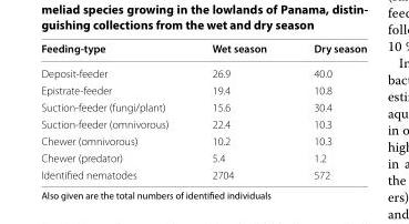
<table><thead><tr><td>Feeding‑type</td><td>Wet season</td><td>Dry season</td></tr></thead><tbody><tr><td>Deposit-feeder</td><td>26.9</td><td>40.0</td></tr><tr><td>Epistrate-feeder</td><td>19.4</td><td>10.8</td></tr><tr><td>Suction-feeder (fungi/plant)</td><td>15.6</td><td>30.4</td></tr><tr><td>Suction-feeder (omnivorous)</td><td>22.4</td><td>10.3</td></tr><tr><td>Chewer (omnivorous)</td><td>10.2</td><td>10.3</td></tr><tr><td>Chewer (predator)</td><td>5.4</td><td>1.2</td></tr><tr><td>Identified nematodes</td><td>2704</td><td>572</td></tr></tbody></table>